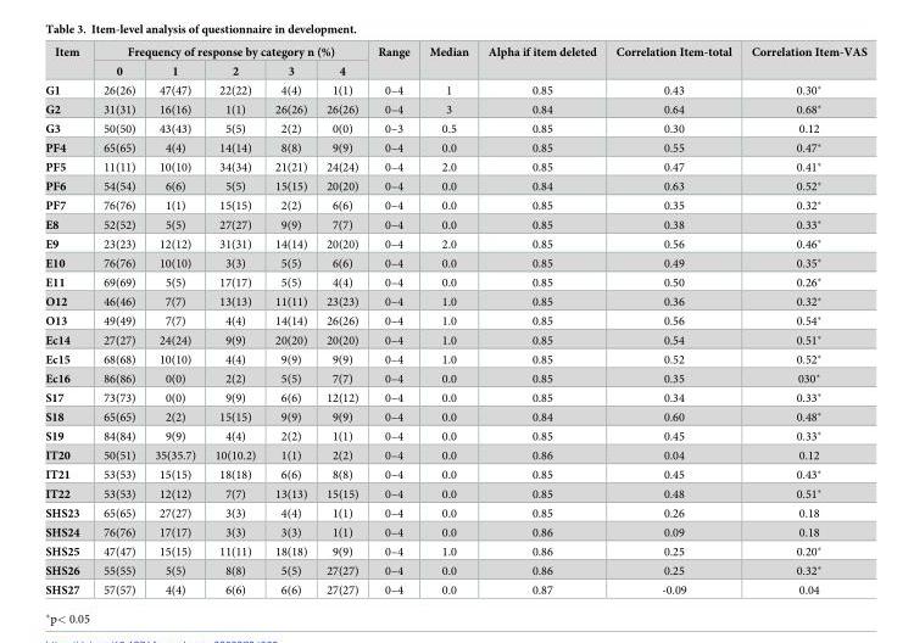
<table><thead><tr><td rowspan="2">Item</td><td colspan="5">Frequency of response by category n (%)</td><td rowspan="2">Range</td><td rowspan="2">Median</td><td rowspan="2">Alpha if item deleted</td><td rowspan="2">Correlation Item-total</td><td rowspan="2">Correlation Item-VAS</td></tr><tr><td>0</td><td>1</td><td>2</td><td>3</td><td>4</td></tr></thead><tbody><tr><td>G1</td><td>26(26)</td><td>47(47)</td><td>22(22)</td><td>4(4)</td><td>1(1)</td><td>0–4</td><td>1</td><td>0.85</td><td>0.43</td><td>0.30*</td></tr><tr><td>G2</td><td>31(31)</td><td>16(16)</td><td>1(1)</td><td>26(26)</td><td>26(26)</td><td>0–4</td><td>3</td><td>0.84</td><td>0.64</td><td>0.68*</td></tr><tr><td>G3</td><td>50(50)</td><td>43(43)</td><td>5(5)</td><td>2(2)</td><td>0(0)</td><td>0–3</td><td>0.5</td><td>0.85</td><td>0.30</td><td>0.12</td></tr><tr><td>PF4</td><td>65(65)</td><td>4(4)</td><td>14(14)</td><td>8(8)</td><td>9(9)</td><td>0–4</td><td>0.0</td><td>0.85</td><td>0.55</td><td>0.47*</td></tr><tr><td>PF5</td><td>11(11)</td><td>10(10)</td><td>34(34)</td><td>21(21)</td><td>24(24)</td><td>0–4</td><td>2.0</td><td>0.85</td><td>0.47</td><td>0.41*</td></tr><tr><td>PF6</td><td>54(54)</td><td>6(6)</td><td>5(5)</td><td>15(15)</td><td>20(20)</td><td>0–4</td><td>0.0</td><td>0.84</td><td>0.63</td><td>0.52*</td></tr><tr><td>PF7</td><td>76(76)</td><td>1(1)</td><td>15(15)</td><td>2(2)</td><td>6(6)</td><td>0–4</td><td>0.0</td><td>0.85</td><td>0.35</td><td>0.32*</td></tr><tr><td>E8</td><td>52(52)</td><td>5(5)</td><td>27(27)</td><td>9(9)</td><td>7(7)</td><td>0–4</td><td>0.0</td><td>0.85</td><td>0.38</td><td>0.33*</td></tr><tr><td>E9</td><td>23(23)</td><td>12(12)</td><td>31(31)</td><td>14(14)</td><td>20(20)</td><td>0–4</td><td>2.0</td><td>0.85</td><td>0.56</td><td>0.46*</td></tr><tr><td>E10</td><td>76(76)</td><td>10(10)</td><td>3(3)</td><td>5(5)</td><td>6(6)</td><td>0–4</td><td>0.0</td><td>0.85</td><td>0.49</td><td>0.35*</td></tr><tr><td>E11</td><td>69(69)</td><td>5(5)</td><td>17(17)</td><td>5(5)</td><td>4(4)</td><td>0–4</td><td>0.0</td><td>0.85</td><td>0.50</td><td>0.26*</td></tr><tr><td>O12</td><td>46(46)</td><td>7(7)</td><td>13(13)</td><td>11(11)</td><td>23(23)</td><td>0–4</td><td>1.0</td><td>0.85</td><td>0.36</td><td>0.32*</td></tr><tr><td>O13</td><td>49(49)</td><td>7(7)</td><td>4(4)</td><td>14(14)</td><td>26(26)</td><td>0–4</td><td>1.0</td><td>0.85</td><td>0.56</td><td>0.54*</td></tr><tr><td>Ec14</td><td>27(27)</td><td>24(24)</td><td>9(9)</td><td>20(20)</td><td>20(20)</td><td>0–4</td><td>1.0</td><td>0.85</td><td>0.54</td><td>0.51*</td></tr><tr><td>Ec15</td><td>68(68)</td><td>10(10)</td><td>4(4)</td><td>9(9)</td><td>9(9)</td><td>0–4</td><td>1.0</td><td>0.85</td><td>0.52</td><td>0.52*</td></tr><tr><td>Ec16</td><td>86(86)</td><td>0(0)</td><td>2(2)</td><td>5(5)</td><td>7(7)</td><td>0–4</td><td>0.0</td><td>0.85</td><td>0.35</td><td>030*</td></tr><tr><td>S17</td><td>73(73)</td><td>0(0)</td><td>9(9)</td><td>6(6)</td><td>12(12)</td><td>0–4</td><td>0.0</td><td>0.85</td><td>0.34</td><td>0.33*</td></tr><tr><td>S18</td><td>65(65)</td><td>2(2)</td><td>15(15)</td><td>9(9)</td><td>9(9)</td><td>0–4</td><td>0.0</td><td>0.84</td><td>0.60</td><td>0.48*</td></tr><tr><td>S19</td><td>84(84)</td><td>9(9)</td><td>4(4)</td><td>2(2)</td><td>1(1)</td><td>0–4</td><td>0.0</td><td>0.85</td><td>0.45</td><td>0.33*</td></tr><tr><td>IT20</td><td>50(51)</td><td>35(35.7)</td><td>10(10.2)</td><td>1(1)</td><td>2(2)</td><td>0–4</td><td>0.0</td><td>0.86</td><td>0.04</td><td>0.12</td></tr><tr><td>IT21</td><td>53(53)</td><td>15(15)</td><td>18(18)</td><td>6(6)</td><td>8(8)</td><td>0–4</td><td>0.0</td><td>0.85</td><td>0.45</td><td>0.43*</td></tr><tr><td>IT22</td><td>53(53)</td><td>12(12)</td><td>7(7)</td><td>13(13)</td><td>15(15)</td><td>0–4</td><td>0.0</td><td>0.85</td><td>0.48</td><td>0.51*</td></tr><tr><td>SHS23</td><td>65(65)</td><td>27(27)</td><td>3(3)</td><td>4(4)</td><td>1(1)</td><td>0–4</td><td>0.0</td><td>0.85</td><td>0.26</td><td>0.18</td></tr><tr><td>SHS24</td><td>76(76)</td><td>17(17)</td><td>3(3)</td><td>3(3)</td><td>1(1)</td><td>0–4</td><td>0.0</td><td>0.86</td><td>0.09</td><td>0.18</td></tr><tr><td>SHS25</td><td>47(47)</td><td>15(15)</td><td>11(11)</td><td>18(18)</td><td>9(9)</td><td>0–4</td><td>1.0</td><td>0.86</td><td>0.25</td><td>0.20*</td></tr><tr><td>SHS26</td><td>55(55)</td><td>5(5)</td><td>8(8)</td><td>5(5)</td><td>27(27)</td><td>0–4</td><td>0.0</td><td>0.86</td><td>0.25</td><td>0.32*</td></tr><tr><td>SHS27</td><td>57(57)</td><td>4(4)</td><td>6(6)</td><td>6(6)</td><td>27(27)</td><td>0–4</td><td>0.0</td><td>0.87</td><td>-0.09</td><td>0.04</td></tr></tbody></table>